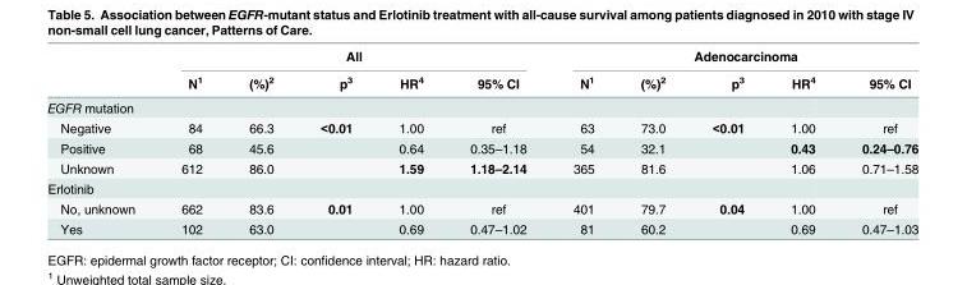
<table><thead><tr><td rowspan="2"></td><td colspan="5">All</td><td colspan="5">Adenocarcinoma</td></tr><tr><td>N<sup>1</sup></td><td>(%)<sup>2</sup></td><td>p<sup>3</sup></td><td>HR<sup>4</sup></td><td>95% CI</td><td>N<sup>1</sup></td><td>(%)<sup>2</sup></td><td>p<sup>3</sup></td><td>HR<sup>4</sup></td><td>95% CI</td></tr></thead><tbody><tr><td colspan="11">EGFR mutation</td></tr><tr><td>Negative</td><td>84</td><td>66.3</td><td>&lt;0.01</td><td>1.00</td><td>ref</td><td>63</td><td>73.0</td><td>&lt;0.01</td><td>1.00</td><td>ref</td></tr><tr><td>Positive</td><td>68</td><td>45.6</td><td></td><td>0.64</td><td>0.35–1.18</td><td>54</td><td>32.1</td><td></td><td>0.43</td><td>0.24–0.76</td></tr><tr><td>Unknown</td><td>612</td><td>86.0</td><td></td><td>1.59</td><td>1.18–2.14</td><td>365</td><td>81.6</td><td></td><td>1.06</td><td>0.71–1.58</td></tr><tr><td colspan="11">Erlotinib</td></tr><tr><td>No, unknown</td><td>662</td><td>83.6</td><td>0.01</td><td>1.00</td><td>ref</td><td>401</td><td>79.7</td><td>0.04</td><td>1.00</td><td>ref</td></tr><tr><td>Yes</td><td>102</td><td>63.0</td><td></td><td>0.69</td><td>0.47–1.02</td><td>81</td><td>60.2</td><td></td><td>0.69</td><td>0.47–1.03</td></tr></tbody></table>